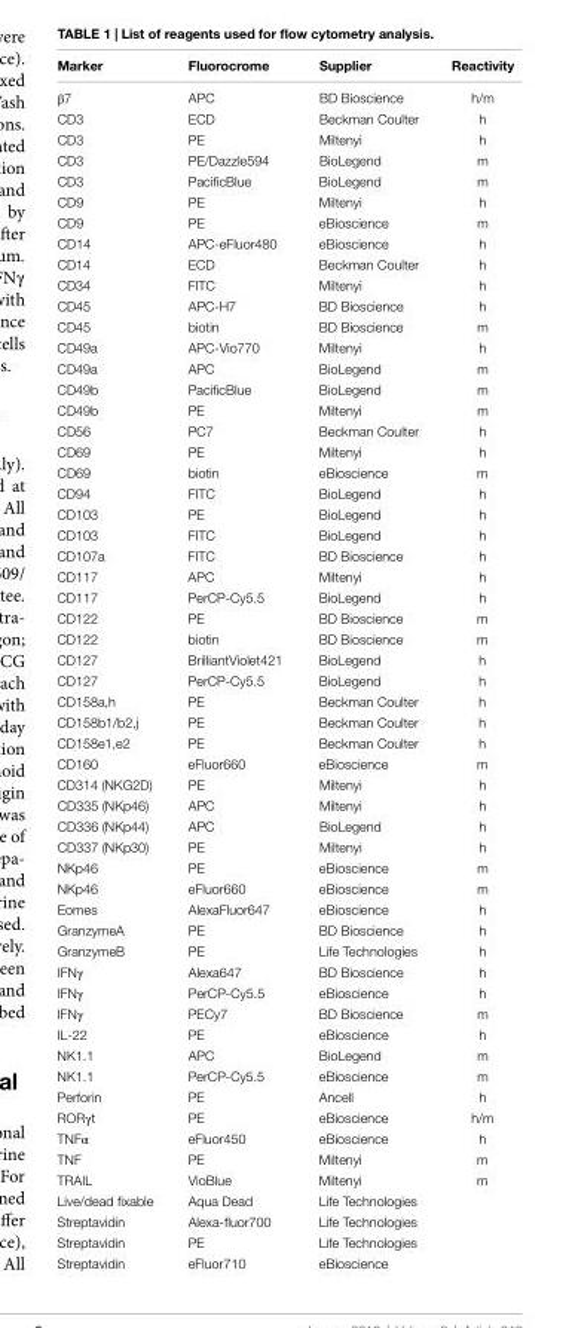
<table><thead><tr><td>Marker</td><td>Fluorocrome</td><td>supplier</td><td>reactivity</td></tr></thead><tbody><tr><td>β7</td><td>APC</td><td>BD Bioscience</td><td>h/m</td></tr><tr><td>CD3</td><td>ECD</td><td>Beckman Coulter</td><td>h</td></tr><tr><td>CD3</td><td>PE</td><td>Miltenyi</td><td>h</td></tr><tr><td>CD3</td><td>PE/Dazzle594</td><td>BioLegend</td><td>m</td></tr><tr><td>CD3</td><td>PacificBlue</td><td>BioLegend</td><td>m</td></tr><tr><td>CD9</td><td>PE</td><td>Miltenyi</td><td>h</td></tr><tr><td>CD9</td><td>PE</td><td>eBioscience</td><td>m</td></tr><tr><td>CD14</td><td>APC-eFluor480</td><td>eBioscience</td><td>h</td></tr><tr><td>CD14</td><td>ECD</td><td>Beckman Coulter</td><td>h</td></tr><tr><td>CD34</td><td>FITC</td><td>Miltenyi</td><td>h</td></tr><tr><td>CD45</td><td>APC-H7</td><td>BD Bioscience</td><td>h</td></tr><tr><td>CD45</td><td>biotin</td><td>BD Bioscience</td><td>m</td></tr><tr><td>CD49a</td><td>APC-Vio770</td><td>Miltenyi</td><td>h</td></tr><tr><td>CD49a</td><td>APC</td><td>BioLegend</td><td>m</td></tr><tr><td>CD49b</td><td>PacificBlue</td><td>BioLegend</td><td>m</td></tr><tr><td>CD49b</td><td>PE</td><td>Miltenyi</td><td>m</td></tr><tr><td>CD56</td><td>PC7</td><td>Beckman Coulter</td><td>h</td></tr><tr><td>CD69</td><td>PE</td><td>Miltenyi</td><td>h</td></tr><tr><td>CD69</td><td>biotin</td><td>eBioscience</td><td>m</td></tr><tr><td>CD94</td><td>FITC</td><td>BioLegend</td><td>h</td></tr><tr><td>CD103</td><td>PE</td><td>BioLegend</td><td>h</td></tr><tr><td>CD103</td><td>FITC</td><td>BioLegend</td><td>h</td></tr><tr><td>CD107a</td><td>FITC</td><td>BD Bioscience</td><td>h</td></tr><tr><td>CD117</td><td>APC</td><td>Miltenyi</td><td>h</td></tr><tr><td>CD117</td><td>PerCP-Cy5.5</td><td>BioLegend</td><td>h</td></tr><tr><td>CD122</td><td>PE</td><td>BD Bioscience</td><td>m</td></tr><tr><td>CD122</td><td>biotin</td><td>BD Bioscience</td><td>m</td></tr><tr><td>CD127</td><td>BrilliantViolet421</td><td>BioLegend</td><td>h</td></tr><tr><td>CD127</td><td>PerCP-Cy5.5</td><td>BioLegend</td><td>h</td></tr><tr><td>CD158a,h</td><td>PE</td><td>Beckman Coulter</td><td>h</td></tr><tr><td>CD158b1/b2,j</td><td>PE</td><td>Beckman Coulter</td><td>h</td></tr><tr><td>CD158e1,e2</td><td>PE</td><td>Beckman Coulter</td><td>h</td></tr><tr><td>CD160</td><td>eFluor660</td><td>eBioscience</td><td>m</td></tr><tr><td>CD314 (NKG2D)</td><td>PE</td><td>Miltenyi</td><td>h</td></tr><tr><td>CD335 (NKp46)</td><td>APC</td><td>Miltenyi</td><td>h</td></tr><tr><td>CD336 (NKp44)</td><td>APC</td><td>BioLegend</td><td>h</td></tr><tr><td>CD337 (NKp30)</td><td>PE</td><td>Miltenyi</td><td>h</td></tr><tr><td>NKp46</td><td>PE</td><td>eBioscience</td><td>m</td></tr><tr><td>NKp46</td><td>eFluor660</td><td>eBioscience</td><td>m</td></tr><tr><td>Eomes</td><td>AlexaFluor647</td><td>eBioscience</td><td>h</td></tr><tr><td>GranzymeA</td><td>PE</td><td>BD Bioscience</td><td>h</td></tr><tr><td>GranzymeB</td><td>PE</td><td>Life Technologies</td><td>h</td></tr><tr><td>IFNγ</td><td>Alexa647</td><td>BD Bioscience</td><td>h</td></tr><tr><td>IFNγ</td><td>PerCP-Cy5.5</td><td>eBioscience</td><td>h</td></tr><tr><td>IFNγ</td><td>PECy7</td><td>BD Bioscience</td><td>m</td></tr><tr><td>IL-22</td><td>PE</td><td>eBioscience</td><td>h</td></tr><tr><td>NK1.1</td><td>APC</td><td>BioLegend</td><td>m</td></tr><tr><td>NK1.1</td><td>PerCP-Cy5.5</td><td>eBioscience</td><td>m</td></tr><tr><td>Perforin</td><td>PE</td><td>Ancell</td><td>h</td></tr><tr><td>RORγt</td><td>PE</td><td>eBioscience</td><td>h/m</td></tr><tr><td>TNFα</td><td>eFluor450</td><td>eBioscience</td><td>h</td></tr><tr><td>TNF</td><td>PE</td><td>Miltenyi</td><td>m</td></tr><tr><td>TRAIL</td><td>VioBlue</td><td>Miltenyi</td><td>m</td></tr><tr><td>Live/dead fixable</td><td>Aqua Dead</td><td>Life Technologies</td><td></td></tr><tr><td>Streptavidin</td><td>Alexa-fluor700</td><td>Life Technologies</td><td></td></tr><tr><td>Streptavidin</td><td>PE</td><td>Life Technologies</td><td></td></tr><tr><td>Streptavidin</td><td>eFluor710</td><td>eBioscience</td><td></td></tr></tbody></table>